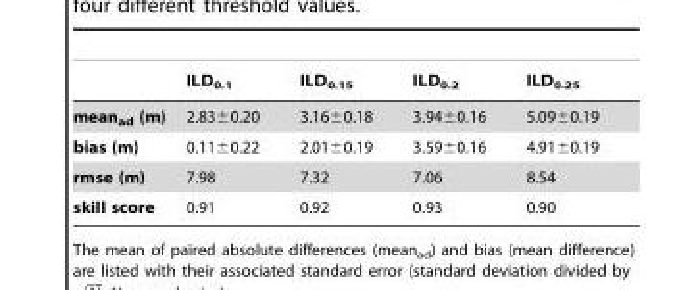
<table><thead><tr><td></td><td>ILD<sub>0.1</sub></td><td>ILD<sub>0.15</sub></td><td>ILD<sub>0.2</sub></td><td>ILD<sub>0.25</sub></td></tr></thead><tbody><tr><td>mean<sub>ad</sub> (m)</td><td>2.83±0.20</td><td>3.16±0.18</td><td>3.94±0.16</td><td>5.09±0.19</td></tr><tr><td>bias (m)</td><td>0.11±0.22</td><td>2.01±0.19</td><td>3.59±0.16</td><td>4.91±0.19</td></tr><tr><td>rmse (m)</td><td>7.98</td><td>7.32</td><td>7.06</td><td>8.54</td></tr><tr><td>skill score</td><td>0.91</td><td>0.92</td><td>0.93</td><td>0.90</td></tr></tbody></table>